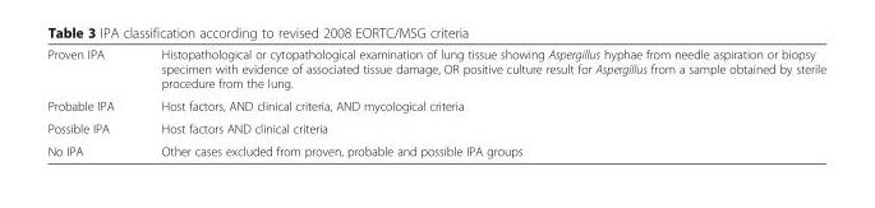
<table><tbody><tr><td>Proven IPA</td><td>Histopathological or cytopathological examination of lung tissue showing Aspergillus hyphae from needle aspiration or biopsy specimen with evidence of associated tissue damage, OR positive culture result for Aspergillus from a sample obtained by sterile procedure from the lung.</td></tr><tr><td>Probable IPA</td><td>Host factors, AND clinical criteria, AND mycological criteria</td></tr><tr><td>Possible IPA</td><td>Host factors AND clinical criteria</td></tr><tr><td>No IPA</td><td>Other cases excluded from proven, probable and possible IPA groups</td></tr></tbody></table>